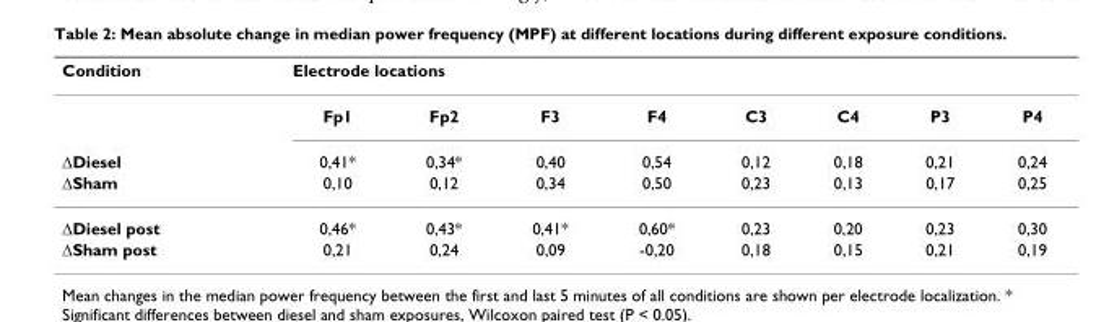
<table><thead><tr><td rowspan="2">Condition</td><td colspan="8">Electrode locations</td></tr><tr><td>Fp1</td><td>Fp2</td><td>F3</td><td>F4</td><td>C3</td><td>C4</td><td>P3</td><td>P4</td></tr></thead><tbody><tr><td>∆Diesel</td><td>0,41*</td><td>0,34*</td><td>0,40</td><td>0,54</td><td>0,12</td><td>0,18</td><td>0,21</td><td>0,24</td></tr><tr><td>∆Sham</td><td>0,10</td><td>0,12</td><td>0,34</td><td>0,50</td><td>0,23</td><td>0,13</td><td>0,17</td><td>0,25</td></tr><tr><td>∆Diesel post</td><td>0,46*</td><td>0,43*</td><td>0,41*</td><td>0,60*</td><td>0,23</td><td>0,20</td><td>0,23</td><td>0,30</td></tr><tr><td>∆Sham post</td><td>0,21</td><td>0,24</td><td>0,09</td><td>-0,20</td><td>0,18</td><td>0,15</td><td>0,21</td><td>0,19</td></tr></tbody></table>